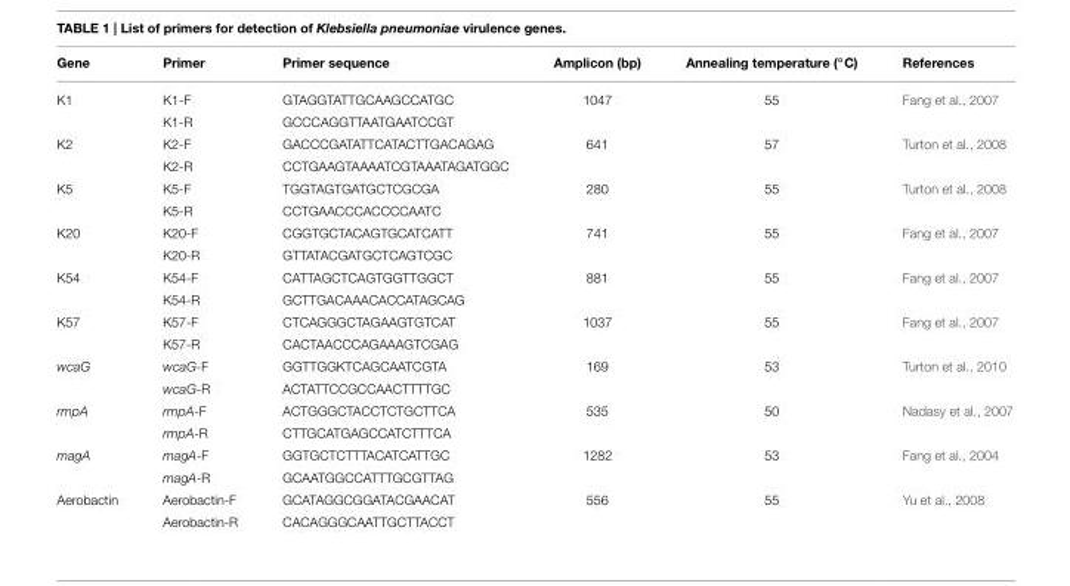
<table><thead><tr><td>Gene</td><td>Primer</td><td>Primer sequence</td><td>Amplicon (bp)</td><td>Annealing temperature (◦C)</td><td>References</td></tr></thead><tbody><tr><td rowspan="2">K1</td><td>K1-F</td><td>GTAGGTATTGCAAGCCATGC</td><td>1047</td><td>55</td><td>Fang et al., 2007</td></tr><tr><td>K1-R</td><td>GCCCAGGTTAATGAATCCGT</td><td></td><td></td><td></td></tr><tr><td rowspan="2">K2</td><td>K2-F</td><td>GACCCGATATTCATACTTGACAGAG</td><td>641</td><td>57</td><td>Turton et al., 2008</td></tr><tr><td>K2-R</td><td>CCTGAAGTAAAATCGTAAATAGATGGC</td><td></td><td></td><td></td></tr><tr><td rowspan="2">K5</td><td>K5-F</td><td>TGGTAGTGATGCTCGCGA</td><td>280</td><td>55</td><td>Turton et al., 2008</td></tr><tr><td>K5-R</td><td>CCTGAACCCACCCCAATC</td><td></td><td></td><td></td></tr><tr><td rowspan="2">K20</td><td>K20-F</td><td>CGGTGCTACAGTGCATCATT</td><td>741</td><td>55</td><td>Fang et al., 2007</td></tr><tr><td>K20-R</td><td>GTTATACGATGCTCAGTCGC</td><td></td><td></td><td></td></tr><tr><td rowspan="2">K54</td><td>K54-F</td><td>CATTAGCTCAGTGGTTGGCT</td><td>881</td><td>55</td><td>Fang et al., 2007</td></tr><tr><td>K54-R</td><td>GCTTGACAAACACCATAGCAG</td><td></td><td></td><td></td></tr><tr><td rowspan="2">K57</td><td>K57-F</td><td>CTCAGGGCTAGAAGTGTCAT</td><td>1037</td><td>55</td><td>Fang et al., 2007</td></tr><tr><td>K57-R</td><td>CACTAACCCAGAAAGTCGAG</td><td></td><td></td><td></td></tr><tr><td rowspan="2">wcaG</td><td>wcaG-F</td><td>GGTTGGKTCAGCAATCGTA</td><td>169</td><td>53</td><td>Turton et al., 2010</td></tr><tr><td>wcaG-R</td><td>ACTATTCCGCCAACTTTTGC</td><td></td><td></td><td></td></tr><tr><td rowspan="2">rmpA</td><td>rmpA-F</td><td>ACTGGGCTACCTCTGCTTCA</td><td>535</td><td>50</td><td>Nadasy et al., 2007</td></tr><tr><td>rmpA-R</td><td>CTTGCATGAGCCATCTTTCA</td><td></td><td></td><td></td></tr><tr><td rowspan="2">magA</td><td>magA-F</td><td>GGTGCTCTTTACATCATTGC</td><td>1282</td><td>53</td><td>Fang et al., 2004</td></tr><tr><td>magA-R</td><td>GCAATGGCCATTTGCGTTAG</td><td></td><td></td><td></td></tr><tr><td rowspan="2">Aerobactin</td><td>Aerobactin-F</td><td>GCATAGGCGGATACGAACAT</td><td>556</td><td>55</td><td>Yu et al., 2008</td></tr><tr><td>Aerobactin-R</td><td>CACAGGGCAATTGCTTACCT</td><td></td><td></td><td></td></tr></tbody></table>